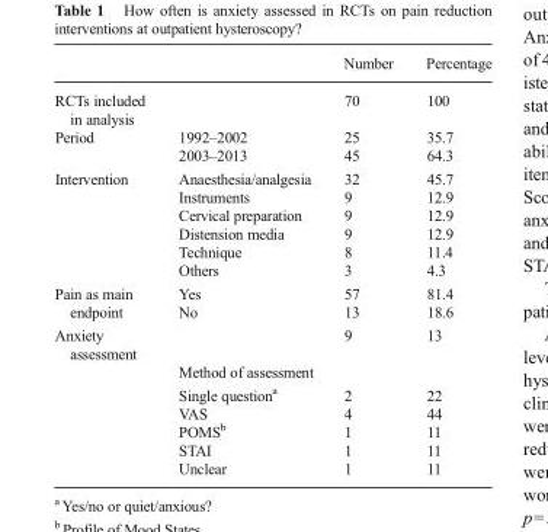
<table><thead><tr><td></td><td></td><td>Number</td><td>Percentage</td></tr></thead><tbody><tr><td>RCTs included in analysis</td><td></td><td>70</td><td>100</td></tr><tr><td>Period</td><td>1992–2002 2003–2013</td><td>25 45</td><td>35.7 64.3</td></tr><tr><td>Intervention</td><td>Anaesthesia/analgesia Instruments Cervical preparation Distension media Technique Others</td><td>32 9 9 9 8 3</td><td>45.7 12.9 12.9 12.9 11.4 4.3</td></tr><tr><td>Pain as main endpoint</td><td>Yes No</td><td>57 13</td><td>81.4 18.6</td></tr><tr><td rowspan="3">Anxiety assessment</td><td></td><td>9</td><td>13</td></tr><tr><td colspan="3">Method of assessment</td></tr><tr><td>Single question<sup>a</sup> VAS POMS<sup>b</sup> STAI Unclear</td><td>2 4 1 1 1</td><td>22 44 11 11 11</td></tr></tbody></table>